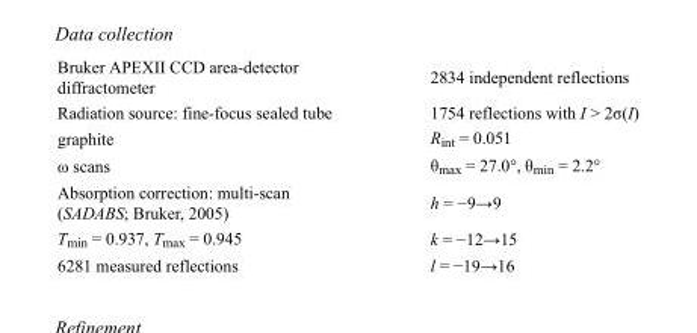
<table><tbody><tr><td>Bruker APEXII CCD area-detector diffractometer</td><td>2834 independent reflections</td></tr><tr><td>Radiation source: fine-focus sealed tube</td><td>1754 reflections with I &gt; 2σ(I)</td></tr><tr><td>graphite</td><td>R<sub>int</sub> = 0.051</td></tr><tr><td>ω scans</td><td>θ<sub>max</sub> = 27.0°, θ<sub>min</sub> = 2.2°</td></tr><tr><td>Absorption correction: multi-scan (SADABS; Bruker, 2005)</td><td>h = −9→9</td></tr><tr><td>T<sub>min</sub> = 0.937, T<sub>max</sub> = 0.945</td><td>k = −12→15</td></tr><tr><td>6281 measured reflections</td><td>l = −19→16</td></tr></tbody></table>